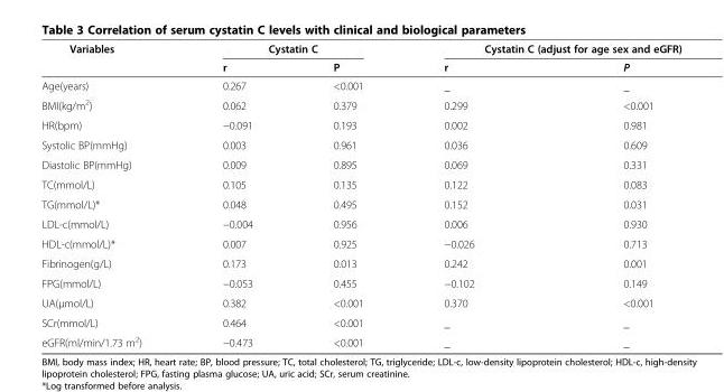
<table><thead><tr><td rowspan="2">Variables</td><td colspan="2">Cystatin C</td><td colspan="2">Cystatin C (adjust for age sex and eGFR)</td></tr><tr><td>r</td><td>P</td><td>r</td><td>P</td></tr></thead><tbody><tr><td>Age(years)</td><td>0.267</td><td>&lt;0.001</td><td>_</td><td>_</td></tr><tr><td>BMI(kg/m<sup>2</sup>)</td><td>0.062</td><td>0.379</td><td>0.299</td><td>&lt;0.001</td></tr><tr><td>HR(bpm)</td><td>−0.091</td><td>0.193</td><td>0.002</td><td>0.981</td></tr><tr><td>Systolic BP(mmHg)</td><td>0.003</td><td>0.961</td><td>0.036</td><td>0.609</td></tr><tr><td>Diastolic BP(mmHg)</td><td>0.009</td><td>0.895</td><td>0.069</td><td>0.331</td></tr><tr><td>TC(mmol/L)</td><td>0.105</td><td>0.135</td><td>0.122</td><td>0.083</td></tr><tr><td>TG(mmol/L)*</td><td>0.048</td><td>0.495</td><td>0.152</td><td>0.031</td></tr><tr><td>LDL-c(mmol/L)</td><td>−0.004</td><td>0.956</td><td>0.006</td><td>0.930</td></tr><tr><td>HDL-c(mmol/L)*</td><td>0.007</td><td>0.925</td><td>−0.026</td><td>0.713</td></tr><tr><td>Fibrinogen(g/L)</td><td>0.173</td><td>0.013</td><td>0.242</td><td>0.001</td></tr><tr><td>FPG(mmol/L)</td><td>−0.053</td><td>0.455</td><td>−0.102</td><td>0.149</td></tr><tr><td>UA(μmol/L)</td><td>0.382</td><td>&lt;0.001</td><td>0.370</td><td>&lt;0.001</td></tr><tr><td>SCr(mmol/L)</td><td>0.464</td><td>&lt;0.001</td><td>_</td><td>_</td></tr><tr><td>eGFR(ml/min/1.73 m<sup>2</sup>)</td><td>−0.473</td><td>&lt;0.001</td><td>_</td><td>_</td></tr></tbody></table>